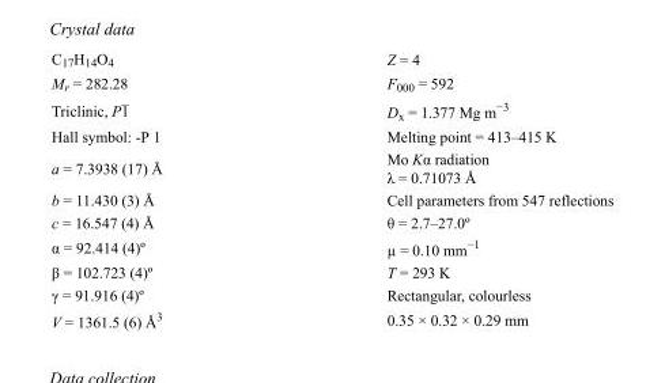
<table><tbody><tr><td>C<sub>17</sub>H<sub>14</sub>O<sub>4</sub></td><td>Z = 4</td></tr><tr><td>M<sub>r</sub> = 282.28</td><td>F000 = 592</td></tr><tr><td>Triclinic, P1</td><td>D<sub>x</sub> = 1.377 Mg m<sup>−3</sup></td></tr><tr><td>Hall symbol: -P 1</td><td>Melting point = 413–415 K</td></tr><tr><td>a = 7.3938 (17) Å</td><td>Mo Kα radiation λ = 0.71073 Å</td></tr><tr><td>b = 11.430 (3) Å</td><td>Cell parameters from 547 reflections</td></tr><tr><td>c = 16.547 (4) Å</td><td>θ = 2.7–27.0º</td></tr><tr><td>α = 92.414 (4)º</td><td>µ = 0.10 mm<sup>−1</sup></td></tr><tr><td>β = 102.723 (4)º</td><td>T = 293 K</td></tr><tr><td>γ = 91.916 (4)º</td><td>Rectangular, colourless</td></tr><tr><td>V = 1361.5 (6) Å<sup>3</sup></td><td>0.35 × 0.32 × 0.29 mm</td></tr></tbody></table>